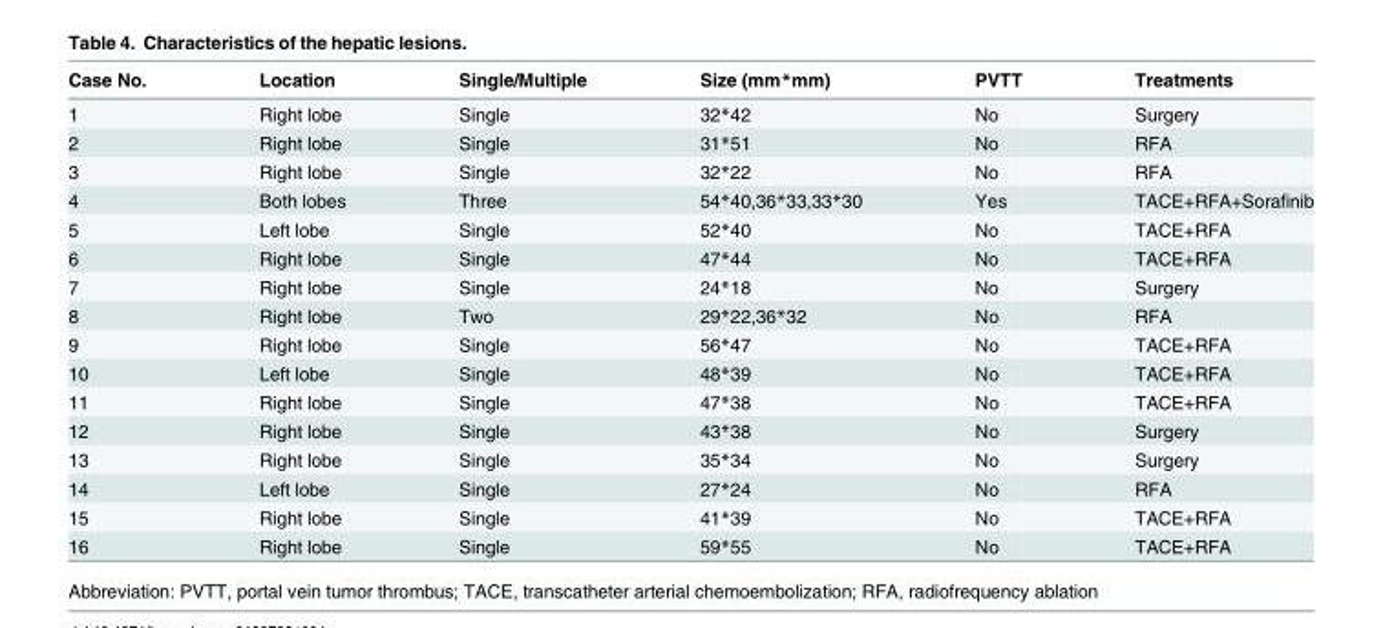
<table><thead><tr><td>Case No.</td><td>Location</td><td>Single/Multiple</td><td>Size (mm*mm)</td><td>PVTT</td><td>Treatments</td></tr></thead><tbody><tr><td>1</td><td>Right lobe</td><td>Single</td><td>32*42</td><td>No</td><td>Surgery</td></tr><tr><td>2</td><td>Right lobe</td><td>Single</td><td>31*51</td><td>No</td><td>RFA</td></tr><tr><td>3</td><td>Right lobe</td><td>Single</td><td>32*22</td><td>No</td><td>RFA</td></tr><tr><td>4</td><td>Both lobes</td><td>Three</td><td>54*40,36*33,33*30</td><td>Yes</td><td>TACE+RFA+Sorafinib</td></tr><tr><td>5</td><td>Left lobe</td><td>Single</td><td>52*40</td><td>No</td><td>TACE+RFA</td></tr><tr><td>6</td><td>Right lobe</td><td>Single</td><td>47*44</td><td>No</td><td>TACE+RFA</td></tr><tr><td>7</td><td>Right lobe</td><td>Single</td><td>24*18</td><td>No</td><td>Surgery</td></tr><tr><td>8</td><td>Right lobe</td><td>Two</td><td>29*22,36*32</td><td>No</td><td>RFA</td></tr><tr><td>9</td><td>Right lobe</td><td>Single</td><td>56*47</td><td>No</td><td>TACE+RFA</td></tr><tr><td>10</td><td>Left lobe</td><td>Single</td><td>48*39</td><td>No</td><td>TACE+RFA</td></tr><tr><td>11</td><td>Right lobe</td><td>Single</td><td>47*38</td><td>No</td><td>TACE+RFA</td></tr><tr><td>12</td><td>Right lobe</td><td>Single</td><td>43*38</td><td>No</td><td>Surgery</td></tr><tr><td>13</td><td>Right lobe</td><td>Single</td><td>35*34</td><td>No</td><td>Surgery</td></tr><tr><td>14</td><td>Left lobe</td><td>Single</td><td>27*24</td><td>No</td><td>RFA</td></tr><tr><td>15</td><td>Right lobe</td><td>Single</td><td>41*39</td><td>No</td><td>TACE+RFA</td></tr><tr><td>16</td><td>Right lobe</td><td>Single</td><td>59*55</td><td>No</td><td>TACE+RFA</td></tr></tbody></table>